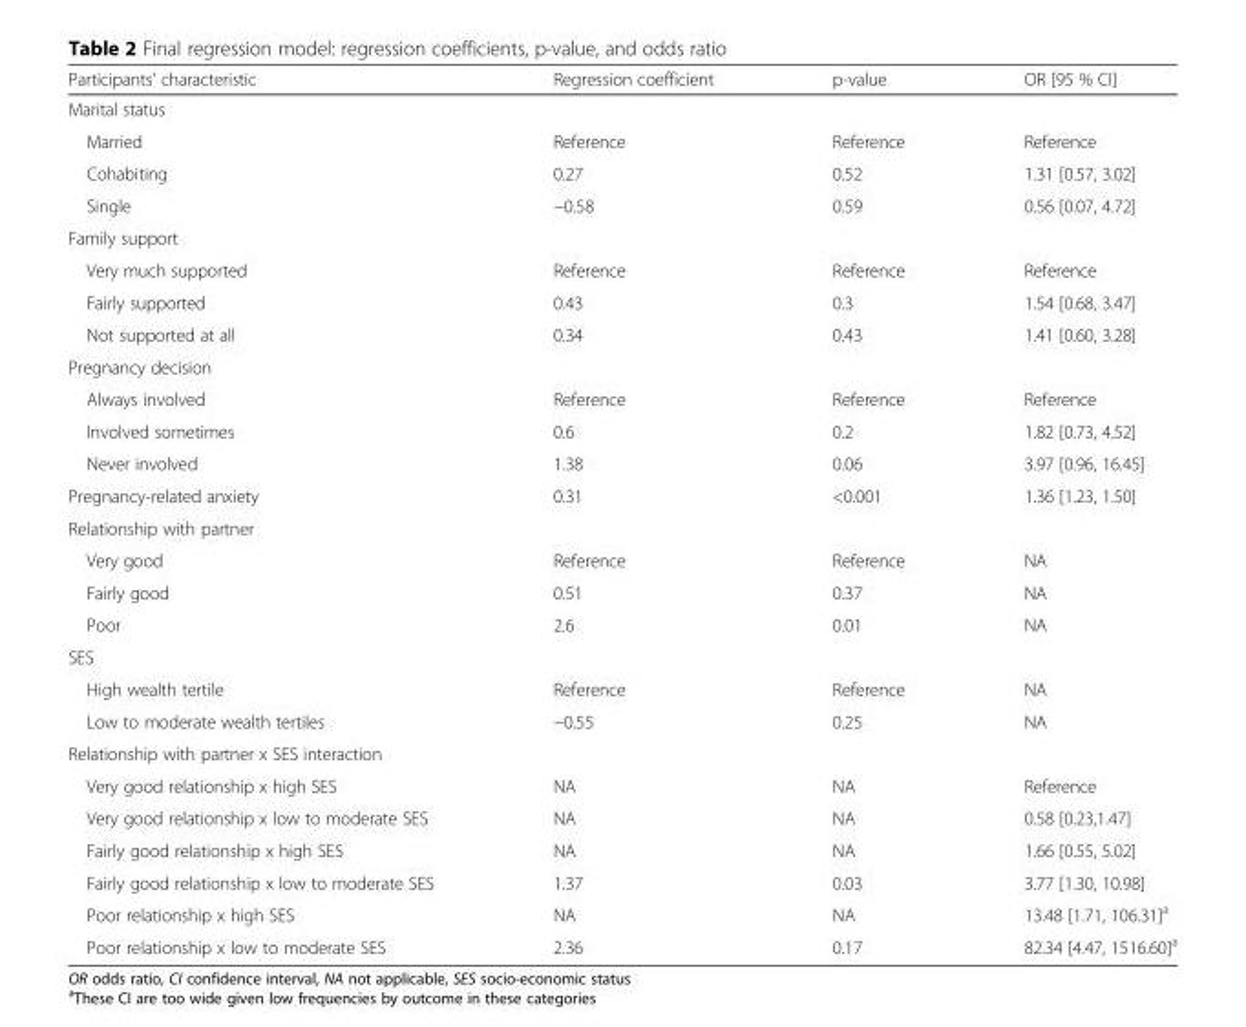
<table><thead><tr><td>Participants’ characteristic</td><td>Regression coefficient</td><td>p-value</td><td>OR [95 % CI]</td></tr></thead><tbody><tr><td colspan="4">Marital status</td></tr><tr><td>Married</td><td>Reference</td><td>Reference</td><td>Reference</td></tr><tr><td>Cohabiting</td><td>0.27</td><td>0.52</td><td>1.31 [0.57, 3.02]</td></tr><tr><td>Single</td><td>−0.58</td><td>0.59</td><td>0.56 [0.07, 4.72]</td></tr><tr><td colspan="4">Family support</td></tr><tr><td>Very much supported</td><td>Reference</td><td>Reference</td><td>Reference</td></tr><tr><td>Fairly supported</td><td>0.43</td><td>0.3</td><td>1.54 [0.68, 3.47]</td></tr><tr><td>Not supported at all</td><td>0.34</td><td>0.43</td><td>1.41 [0.60, 3.28]</td></tr><tr><td colspan="4">Pregnancy decision</td></tr><tr><td>Always involved</td><td>Reference</td><td>Reference</td><td>Reference</td></tr><tr><td>Involved sometimes</td><td>0.6</td><td>0.2</td><td>1.82 [0.73, 4.52]</td></tr><tr><td>Never involved</td><td>1.38</td><td>0.06</td><td>3.97 [0.96, 16.45]</td></tr><tr><td>Pregnancy-related anxiety</td><td>0.31</td><td>&lt;0.001</td><td>1.36 [1.23, 1.50]</td></tr><tr><td colspan="4">Relationship with partner</td></tr><tr><td>Very good</td><td>Reference</td><td>Reference</td><td>NA</td></tr><tr><td>Fairly good</td><td>0.51</td><td>0.37</td><td>NA</td></tr><tr><td>Poor</td><td>2.6</td><td>0.01</td><td>NA</td></tr><tr><td colspan="4">SES</td></tr><tr><td>High wealth tertile</td><td>Reference</td><td>Reference</td><td>NA</td></tr><tr><td>Low to moderate wealth tertiles</td><td>−0.55</td><td>0.25</td><td>NA</td></tr><tr><td colspan="4">Relationship with partner x SES interaction</td></tr><tr><td>Very good relationship x high SES</td><td>NA</td><td>NA</td><td>Reference</td></tr><tr><td>Very good relationship x low to moderate SES</td><td>NA</td><td>NA</td><td>0.58 [0.23,1.47]</td></tr><tr><td>Fairly good relationship x high SES</td><td>NA</td><td>NA</td><td>1.66 [0.55, 5.02]</td></tr><tr><td>Fairly good relationship x low to moderate SES</td><td>1.37</td><td>0.03</td><td>3.77 [1.30, 10.98]</td></tr><tr><td>Poor relationship x high SES</td><td>NA</td><td>NA</td><td>13.48 [1.71, 106.31]<sup>a</sup></td></tr><tr><td>Poor relationship x low to moderate SES</td><td>2.36</td><td>0.17</td><td>82.34 [4.47, 1516.60]<sup>a</sup></td></tr></tbody></table>